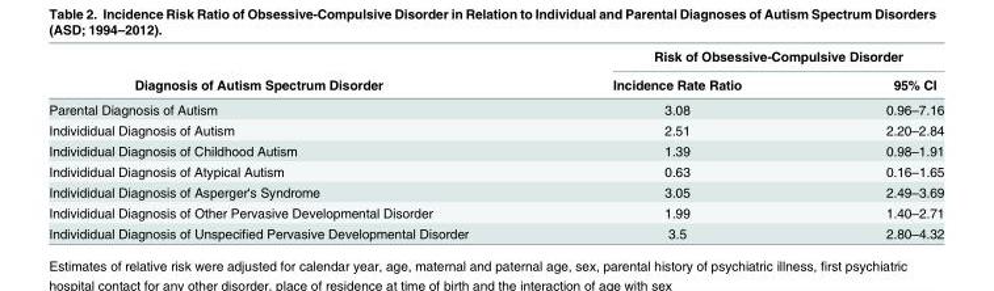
<table><thead><tr><td rowspan="2">Diagnosis of Autism Spectrum Disorder</td><td colspan="2">Risk of Obsessive-Compulsive Disorder</td></tr><tr><td>Incidence Rate Ratio</td><td>95% CI</td></tr></thead><tbody><tr><td>Parental Diagnosis of Autism</td><td>3.08</td><td>0.96–7.16</td></tr><tr><td>Individidual Diagnosis of Autism</td><td>2.51</td><td>2.20–2.84</td></tr><tr><td>Individidual Diagnosis of Childhood Autism</td><td>1.39</td><td>0.98–1.91</td></tr><tr><td>Individidual Diagnosis of Atypical Autism</td><td>0.63</td><td>0.16–1.65</td></tr><tr><td>Individidual Diagnosis of Asperger&#x27;s Syndrome</td><td>3.05</td><td>2.49–3.69</td></tr><tr><td>Individidual Diagnosis of Other Pervasive Developmental Disorder</td><td>1.99</td><td>1.40–2.71</td></tr><tr><td>Individidual Diagnosis of Unspecified Pervasive Developmental Disorder</td><td>3.5</td><td>2.80–4.32</td></tr></tbody></table>